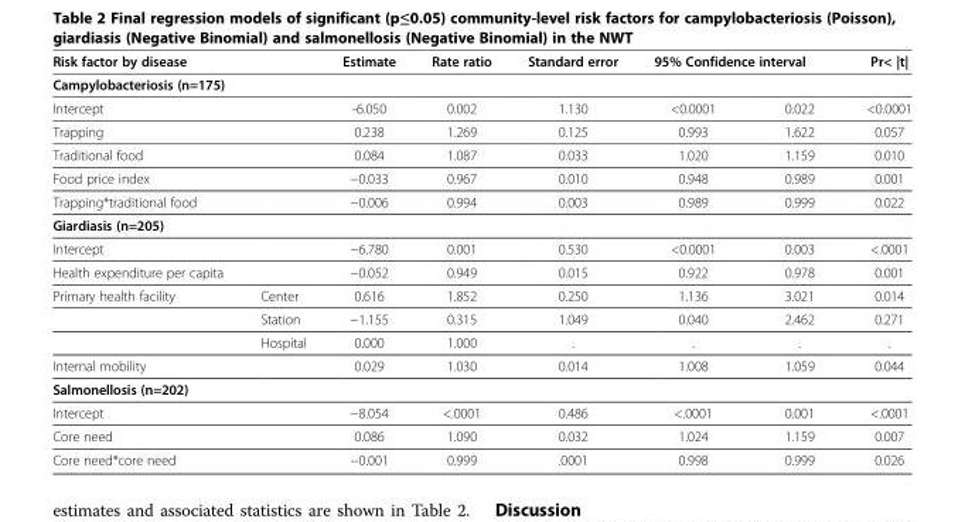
<table><thead><tr><td rowspan="2">Risk factor by disease Campylobacteriosis (n=175)</td><td rowspan="2"></td><td rowspan="2">Estimate</td><td rowspan="2">Rate ratio</td><td rowspan="2">Standard error</td><td colspan="2">95% Confidence interval</td><td rowspan="2">Pr&lt; |t|</td></tr><tr><td></td><td></td></tr></thead><tbody><tr><td>Intercept</td><td></td><td>-6.050</td><td>0.002</td><td>1.130</td><td>&lt;0.0001</td><td>0.022</td><td>&lt;0.0001</td></tr><tr><td>Trapping</td><td></td><td>0.238</td><td>1.269</td><td>0.125</td><td>0.993</td><td>1.622</td><td>0.057</td></tr><tr><td>Traditional food</td><td></td><td>0.084</td><td>1.087</td><td>0.033</td><td>1.020</td><td>1.159</td><td>0.010</td></tr><tr><td>Food price index</td><td></td><td>−0.033</td><td>0.967</td><td>0.010</td><td>0.948</td><td>0.989</td><td>0.001</td></tr><tr><td>Trapping*traditional food</td><td></td><td>−0.006</td><td>0.994</td><td>0.003</td><td>0.989</td><td>0.999</td><td>0.022</td></tr><tr><td colspan="8">Giardiasis (n=205)</td></tr><tr><td>Intercept</td><td></td><td>−6.780</td><td>0.001</td><td>0.530</td><td>&lt;0.0001</td><td>0.003</td><td>&lt;.0001</td></tr><tr><td>Health expenditure per capita</td><td></td><td>−0.052</td><td>0.949</td><td>0.015</td><td>0.922</td><td>0.978</td><td>0.001</td></tr><tr><td rowspan="3">Primary health facility</td><td>Center</td><td>0.616</td><td>1.852</td><td>0.250</td><td>1.136</td><td>3.021</td><td>0.014</td></tr><tr><td>Station</td><td>−1.155</td><td>0.315</td><td>1.049</td><td>0.040</td><td>2.462</td><td>0.271</td></tr><tr><td>Hospital</td><td>0.000</td><td>1.000</td><td>.</td><td>.</td><td>.</td><td>.</td></tr><tr><td>Internal mobility</td><td></td><td>0.029</td><td>1.030</td><td>0.014</td><td>1.008</td><td>1.059</td><td>0.044</td></tr><tr><td colspan="8">Salmonellosis (n=202)</td></tr><tr><td>Intercept</td><td></td><td>−8.054</td><td>&lt;.0001</td><td>0.486</td><td>&lt;.0001</td><td>0.001</td><td>&lt;.0001</td></tr><tr><td>Core need</td><td></td><td>0.086</td><td>1.090</td><td>0.032</td><td>1.024</td><td>1.159</td><td>0.007</td></tr><tr><td>Core need*core need</td><td></td><td>−0.001</td><td>0.999</td><td>.0001</td><td>0.998</td><td>0.999</td><td>0.026</td></tr></tbody></table>